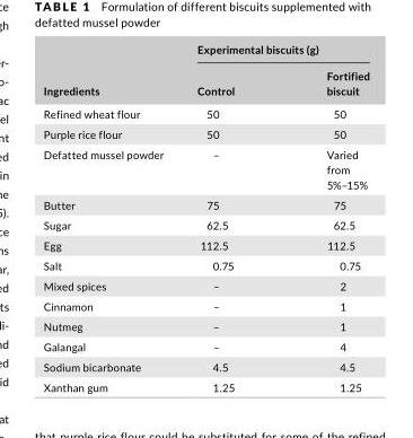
<table><thead><tr><td rowspan="2">Ingredients</td><td colspan="2">Experimental biscuits (g)</td></tr><tr><td>Control</td><td>Fortified biscuit</td></tr></thead><tbody><tr><td>Refined wheat flour</td><td>50</td><td>50</td></tr><tr><td>Purple rice flour</td><td>50</td><td>50</td></tr><tr><td>Defatted mussel powder</td><td>–</td><td>Varied from 5%–15%</td></tr><tr><td>Butter</td><td>75</td><td>75</td></tr><tr><td>Sugar</td><td>62.5</td><td>62.5</td></tr><tr><td>Egg</td><td>112.5</td><td>112.5</td></tr><tr><td>Salt</td><td>0.75</td><td>0.75</td></tr><tr><td>Mixed spices</td><td>–</td><td>2</td></tr><tr><td>Cinnamon</td><td>–</td><td>1</td></tr><tr><td>Nutmeg</td><td>–</td><td>1</td></tr><tr><td>Galangal</td><td>–</td><td>4</td></tr><tr><td>Sodium bicarbonate</td><td>4.5</td><td>4.5</td></tr><tr><td>Xanthan gum</td><td>1.25</td><td>1.25</td></tr></tbody></table>